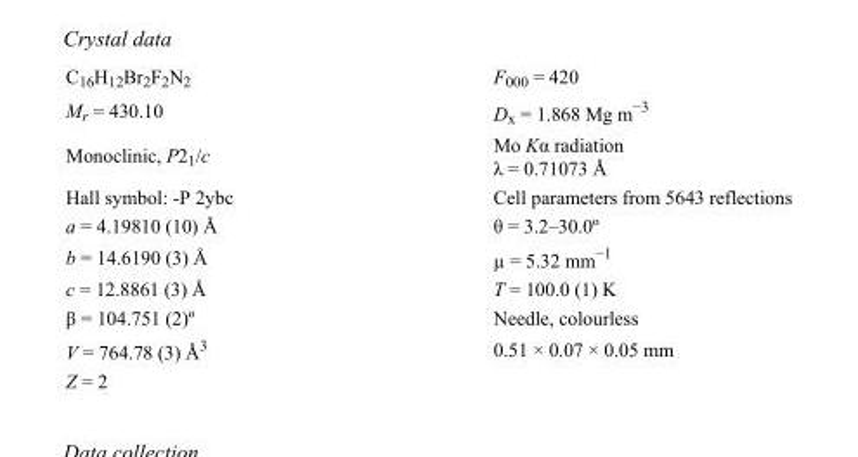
<table><tbody><tr><td>C<sub>16</sub>H<sub>12</sub>Br<sub>2</sub>F<sub>2</sub>N<sub>2</sub></td><td>F000 = 420</td></tr><tr><td>M<sub>r</sub> = 430.10</td><td>D<sub>x</sub> = 1.868 Mg m<sup>−3</sup></td></tr><tr><td>Monoclinic, P2<sub>1</sub>/c</td><td>Mo Kα radiation λ = 0.71073 Å</td></tr><tr><td>Hall symbol: -P 2ybc</td><td>Cell parameters from 5643 reflections</td></tr><tr><td>a = 4.19810 (10) Å</td><td>θ = 3.2–30.0º</td></tr><tr><td>b = 14.6190 (3) Å</td><td>µ = 5.32 mm<sup>−1</sup></td></tr><tr><td>c = 12.8861 (3) Å</td><td>T = 100.0 (1) K</td></tr><tr><td>β = 104.751 (2)º</td><td>Needle, colourless</td></tr><tr><td>V = 764.78 (3) Å<sup>3</sup></td><td>0.51 × 0.07 × 0.05 mm</td></tr><tr><td>Z = 2</td><td></td></tr></tbody></table>